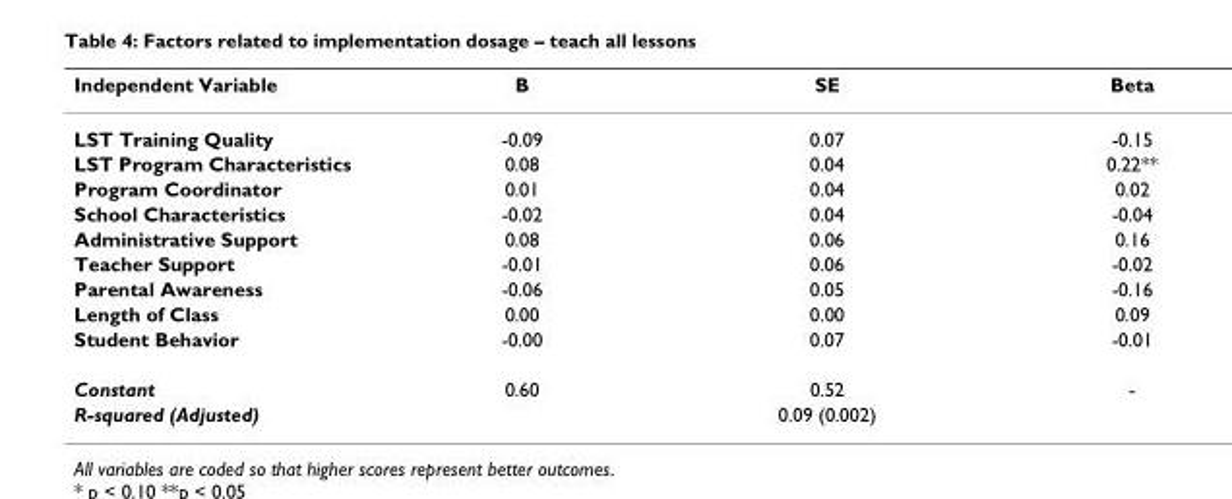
<table><thead><tr><td>Independent Variable</td><td>B</td><td>SE</td><td>Beta</td></tr></thead><tbody><tr><td>LST Training Quality</td><td>-0.09</td><td>0.07</td><td>-0.15</td></tr><tr><td>LST Program Characteristics</td><td>0.08</td><td>0.04</td><td>0.22**</td></tr><tr><td>Program Coordinator</td><td>0.01</td><td>0.04</td><td>0.02</td></tr><tr><td>School Characteristics</td><td>-0.02</td><td>0.04</td><td>-0.04</td></tr><tr><td>Administrative Support</td><td>0.08</td><td>0.06</td><td>0.16</td></tr><tr><td>Teacher Support</td><td>-0.01</td><td>0.06</td><td>-0.02</td></tr><tr><td>Parental Awareness</td><td>-0.06</td><td>0.05</td><td>-0.16</td></tr><tr><td>Length of Class</td><td>0.00</td><td>0.00</td><td>0.09</td></tr><tr><td>Student Behavior</td><td>-0.00</td><td>0.07</td><td>-0.01</td></tr><tr><td>Constant</td><td>0.60</td><td>0.52</td><td>-</td></tr><tr><td>R-squared (Adjusted)</td><td></td><td>0.09 (0.002)</td><td></td></tr></tbody></table>